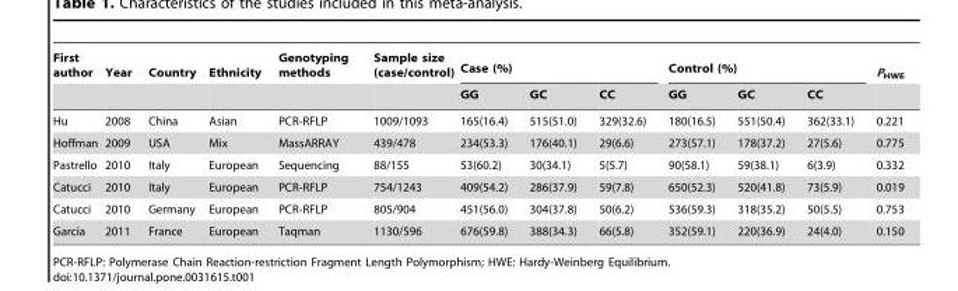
<table><thead><tr><td rowspan="2">First author</td><td rowspan="2">Year</td><td rowspan="2">Country</td><td rowspan="2">Ethnicity</td><td rowspan="2">Genotyping methods</td><td rowspan="2">Sample size (case/control)</td><td colspan="3">Case (%)</td><td colspan="3">Control (%)</td><td rowspan="2">P<sub>HWE</sub></td></tr><tr><td>GG</td><td>GC</td><td>CC</td><td>GG</td><td>GC</td><td>CC</td></tr></thead><tbody><tr><td>Hu</td><td>2008</td><td>China</td><td>Asian</td><td>PCR-RFLP</td><td>1009/1093</td><td>165(16.4)</td><td>515(51.0)</td><td>329(32.6)</td><td>180(16.5)</td><td>551(50.4)</td><td>362(33.1)</td><td>0.221</td></tr><tr><td>Hoffman</td><td>2009</td><td>USA</td><td>Mix</td><td>MassARRAY</td><td>439/478</td><td>234(53.3)</td><td>176(40.1)</td><td>29(6.6)</td><td>273(57.1)</td><td>178(37.2)</td><td>27(5.6)</td><td>0.775</td></tr><tr><td>Pastrello</td><td>2010</td><td>Italy</td><td>European</td><td>Sequencing</td><td>88/155</td><td>53(60.2)</td><td>30(34.1)</td><td>5(5.7)</td><td>90(58.1)</td><td>59(38.1)</td><td>6(3.9)</td><td>0.332</td></tr><tr><td>Catucci</td><td>2010</td><td>Italy</td><td>European</td><td>PCR-RFLP</td><td>754/1243</td><td>409(54.2)</td><td>286(37.9)</td><td>59(7.8)</td><td>650(52.3)</td><td>520(41.8)</td><td>73(5.9)</td><td>0.019</td></tr><tr><td>Catucci</td><td>2010</td><td>Germany</td><td>European</td><td>PCR-RFLP</td><td>805/904</td><td>451(56.0)</td><td>304(37.8)</td><td>50(6.2)</td><td>536(59.3)</td><td>318(35.2)</td><td>50(5.5)</td><td>0.753</td></tr><tr><td>Garcia</td><td>2011</td><td>France</td><td>European</td><td>Taqman</td><td>1130/596</td><td>676(59.8)</td><td>388(34.3)</td><td>66(5.8)</td><td>352(59.1)</td><td>220(36.9)</td><td>24(4.0)</td><td>0.150</td></tr></tbody></table>